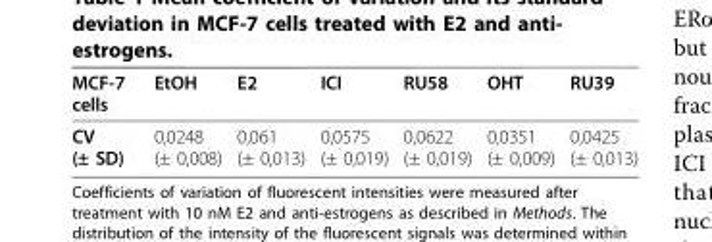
<table><thead><tr><td>MCF-7 cells</td><td>EtOH</td><td>E2</td><td>ICI</td><td>RU58</td><td>OHT</td><td>RU39</td></tr></thead><tbody><tr><td>CV (± SD)</td><td>0,0248 (± 0,008)</td><td>0,061 (± 0,013)</td><td>0,0575 (± 0,019)</td><td>0,0622 (± 0,019)</td><td>0,0351 (± 0,009)</td><td>0,0425 (± 0,013)</td></tr></tbody></table>